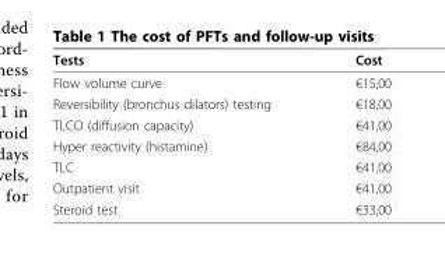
<table><thead><tr><td>Tests</td><td>Cost</td></tr></thead><tbody><tr><td>Flow volume curve</td><td>€15,00</td></tr><tr><td>Reversibility (bronchus dilators) testing</td><td>€18,00</td></tr><tr><td>TLCO (diffusion capacity)</td><td>€41,00</td></tr><tr><td>Hyper reactivity (histamine)</td><td>€84,00</td></tr><tr><td>TLC</td><td>€41,00</td></tr><tr><td>Outpatient visit</td><td>€41,00</td></tr><tr><td>Steroid test</td><td>€33,00</td></tr></tbody></table>